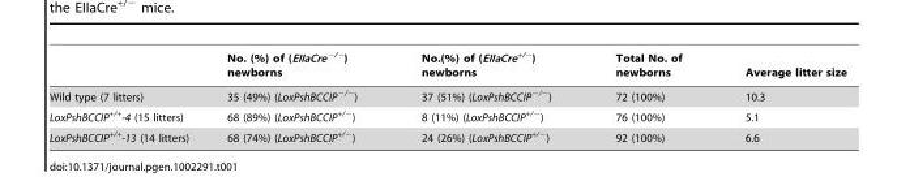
<table><thead><tr><td></td><td>No. (%) of (EIIaCre<sup>−/−</sup>) newborns</td><td>No.(%) of (EIIaCre<sup>+/−</sup>) newborns</td><td>Total No. of newborns</td><td>Average litter size</td></tr></thead><tbody><tr><td>Wild type (7 litters)</td><td>35 (49%) (LoxPshBCCIP<sup>−/−</sup>)</td><td>37 (51%) (LoxPshBCCIP<sup>−/−</sup>)</td><td>72 (100%)</td><td>10.3</td></tr><tr><td>LoxPshBCCIP<sup>+/+</sup>-4 (15 litters)</td><td>68 (89%) (LoxPshBCCIP<sup>+/−</sup>)</td><td>8 (11%) (LoxPshBCCIP<sup>+/−</sup>)</td><td>76 (100%)</td><td>5.1</td></tr><tr><td>LoxPshBCCIP<sup>+/+</sup>-13 (14 litters)</td><td>68 (74%) (LoxPshBCCIP<sup>+/−</sup>)</td><td>24 (26%) (LoxPshBCCIP<sup>+/−</sup>)</td><td>92 (100%)</td><td>6.6</td></tr></tbody></table>